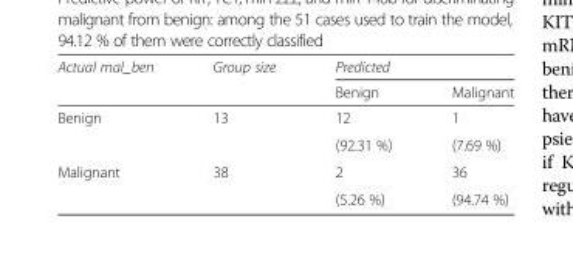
<table><thead><tr><td rowspan="2">Actual mal_ben</td><td rowspan="2">Group size</td><td colspan="2">Predicted</td></tr><tr><td>Benign</td><td>Malignant</td></tr></thead><tbody><tr><td rowspan="2">Benign</td><td rowspan="2">13</td><td>12</td><td>1</td></tr><tr><td>(92.31 %)</td><td>(7.69 %)</td></tr><tr><td rowspan="2">Malignant</td><td rowspan="2">38</td><td>2</td><td>36</td></tr><tr><td>(5.26 %)</td><td>(94.74 %)</td></tr></tbody></table>